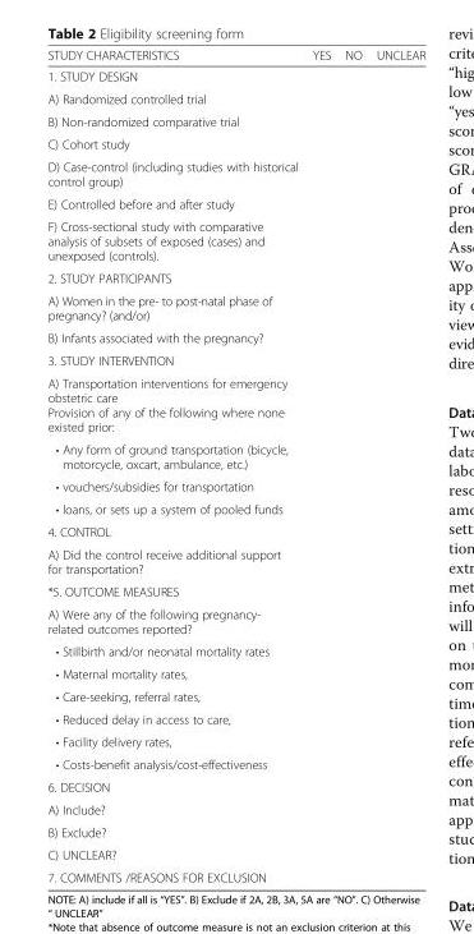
<table><thead><tr><td>STUDY CHARACTERISTICS</td><td>YES</td><td>NO</td><td>UNCLEAR</td></tr></thead><tbody><tr><td colspan="4">1. STUDY DESIGN</td></tr><tr><td colspan="4">A) Randomized controlled trial</td></tr><tr><td colspan="4">B) Non-randomized comparative trial</td></tr><tr><td colspan="4">C) Cohort study</td></tr><tr><td colspan="4">D) Case-control (including studies with historical control group)</td></tr><tr><td colspan="4">E) Controlled before and after study</td></tr><tr><td colspan="4">F) Cross-sectional study with comparative analysis of subsets of exposed (cases) and unexposed (controls).</td></tr><tr><td colspan="4">2. STUDY PARTICIPANTS</td></tr><tr><td colspan="4">A) Women in the pre- to post-natal phase of pregnancy? (and/or)</td></tr><tr><td colspan="4">B) Infants associated with the pregnancy?</td></tr><tr><td colspan="4">3. STUDY INTERVENTION</td></tr><tr><td colspan="4">A) Transportation interventions for emergency obstetric care Provision of any of the following where none existed prior:</td></tr><tr><td colspan="4">• Any form of ground transportation (bicycle, motorcycle, oxcart, ambulance, etc.)</td></tr><tr><td colspan="4">• vouchers/subsidies for transportation</td></tr><tr><td colspan="4">• loans, or sets up a system of pooled funds</td></tr><tr><td colspan="4">4. CONTROL</td></tr><tr><td colspan="4">A) Did the control receive additional support for transportation?</td></tr><tr><td colspan="4">*5. OUTCOME MEASURES</td></tr><tr><td colspan="4">A) Were any of the following pregnancy- related outcomes reported?</td></tr><tr><td colspan="4">• Stillbirth and/or neonatal mortality rates</td></tr><tr><td colspan="4">• Maternal mortality rates,</td></tr><tr><td colspan="4">• Care-seeking, referral rates,</td></tr><tr><td colspan="4">• Reduced delay in access to care,</td></tr><tr><td colspan="4">• Facility delivery rates,</td></tr><tr><td colspan="4">• Costs-benefit analysis/cost-effectiveness</td></tr><tr><td colspan="4">6. DECISION</td></tr><tr><td colspan="4">A) Include?</td></tr><tr><td colspan="4">B) Exclude?</td></tr><tr><td colspan="4">C) UNCLEAR?</td></tr><tr><td colspan="4">7. COMMENTS /REASONS FOR EXCLUSION</td></tr></tbody></table>